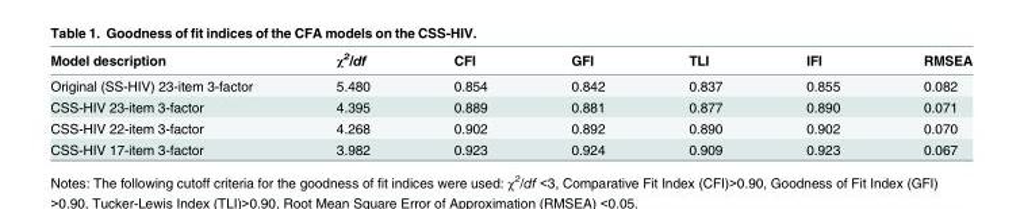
<table><thead><tr><td>Model description</td><td>χ<sup>2</sup>/df</td><td>CFI</td><td>GFI</td><td>TLI</td><td>IFI</td><td>RMSEA</td></tr></thead><tbody><tr><td>Original (SS-HIV) 23-item 3-factor</td><td>5.480</td><td>0.854</td><td>0.842</td><td>0.837</td><td>0.855</td><td>0.082</td></tr><tr><td>CSS-HIV 23-item 3-factor</td><td>4.395</td><td>0.889</td><td>0.881</td><td>0.877</td><td>0.890</td><td>0.071</td></tr><tr><td>CSS-HIV 22-item 3-factor</td><td>4.268</td><td>0.902</td><td>0.892</td><td>0.890</td><td>0.902</td><td>0.070</td></tr><tr><td>CSS-HIV 17-item 3-factor</td><td>3.982</td><td>0.923</td><td>0.924</td><td>0.909</td><td>0.923</td><td>0.067</td></tr></tbody></table>